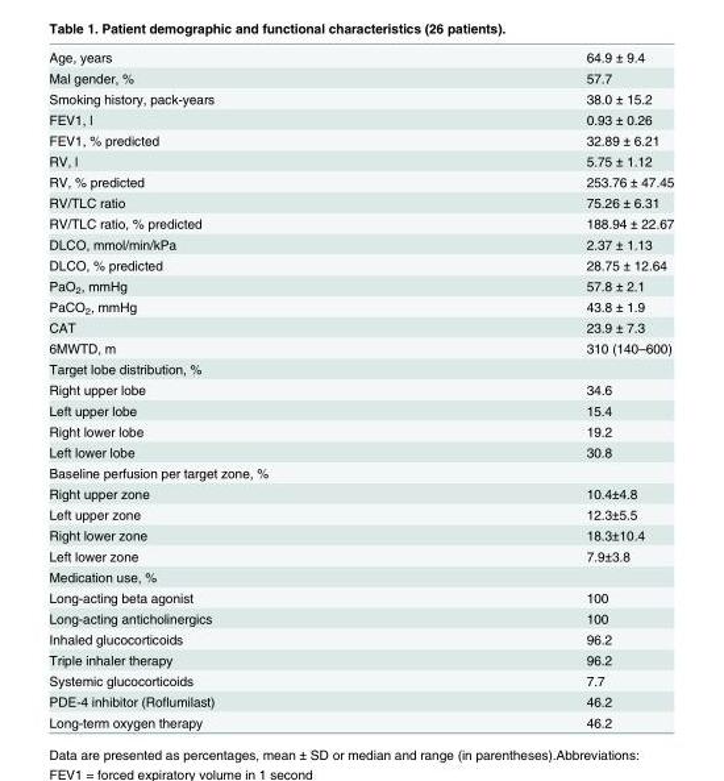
<table><tbody><tr><td>Age, years</td><td>64.9 ± 9.4</td></tr><tr><td>Mal gender, %</td><td>57.7</td></tr><tr><td>Smoking history, pack-years</td><td>38.0 ± 15.2</td></tr><tr><td>FEV1, l</td><td>0.93 ± 0.26</td></tr><tr><td>FEV1, % predicted</td><td>32.89 ± 6.21</td></tr><tr><td>RV, l</td><td>5.75 ± 1.12</td></tr><tr><td>RV, % predicted</td><td>253.76 ± 47.45</td></tr><tr><td>RV/TLC ratio</td><td>75.26 ± 6.31</td></tr><tr><td>RV/TLC ratio, % predicted</td><td>188.94 ± 22.67</td></tr><tr><td>DLCO, mmol/min/kPa</td><td>2.37 ± 1.13</td></tr><tr><td>DLCO, % predicted</td><td>28.75 ± 12.64</td></tr><tr><td>PaO<sub>2</sub>, mmHg</td><td>57.8 ± 2.1</td></tr><tr><td>PaCO<sub>2</sub>, mmHg</td><td>43.8 ± 1.9</td></tr><tr><td>CAT</td><td>23.9 ± 7.3</td></tr><tr><td>6MWTD, m</td><td>310 (140–600)</td></tr><tr><td colspan="2">Target lobe distribution, %</td></tr><tr><td>Right upper lobe</td><td>34.6</td></tr><tr><td>Left upper lobe</td><td>15.4</td></tr><tr><td>Right lower lobe</td><td>19.2</td></tr><tr><td>Left lower lobe</td><td>30.8</td></tr><tr><td colspan="2">Baseline perfusion per target zone, %</td></tr><tr><td>Right upper zone</td><td>10.4±4.8</td></tr><tr><td>Left upper zone</td><td>12.3±5.5</td></tr><tr><td>Right lower zone</td><td>18.3±10.4</td></tr><tr><td>Left lower zone</td><td>7.9±3.8</td></tr><tr><td colspan="2">Medication use, %</td></tr><tr><td>Long-acting beta agonist</td><td>100</td></tr><tr><td>Long-acting anticholinergics</td><td>100</td></tr><tr><td>Inhaled glucocorticoids</td><td>96.2</td></tr><tr><td>Triple inhaler therapy</td><td>96.2</td></tr><tr><td>Systemic glucocorticoids</td><td>7.7</td></tr><tr><td>PDE-4 inhibitor (Roflumilast)</td><td>46.2</td></tr><tr><td>Long-term oxygen therapy</td><td>46.2</td></tr></tbody></table>